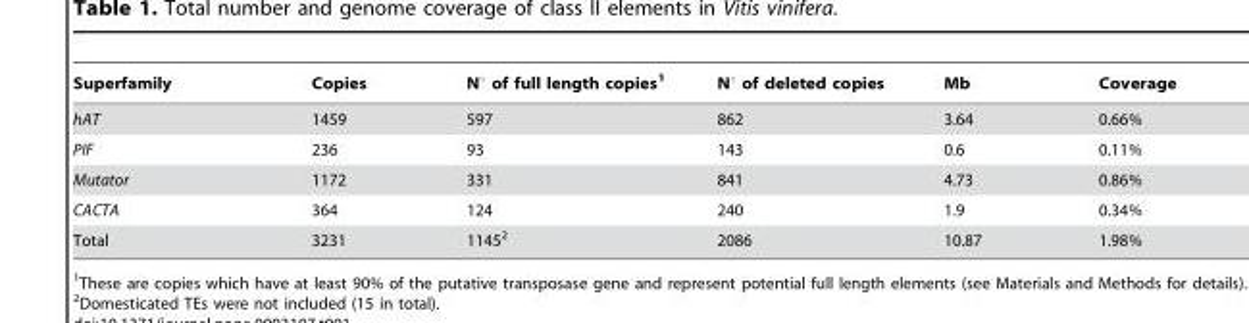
<table><thead><tr><td>Superfamily</td><td>Copies</td><td>N° of full length copies<sup>1</sup></td><td>N° of deleted copies</td><td>Mb</td><td>Coverage</td></tr></thead><tbody><tr><td>hAT</td><td>1459</td><td>597</td><td>862</td><td>3.64</td><td>0.66%</td></tr><tr><td>PIF</td><td>236</td><td>93</td><td>143</td><td>0.6</td><td>0.11%</td></tr><tr><td>Mutator</td><td>1172</td><td>331</td><td>841</td><td>4.73</td><td>0.86%</td></tr><tr><td>CACTA</td><td>364</td><td>124</td><td>240</td><td>1.9</td><td>0.34%</td></tr><tr><td>Total</td><td>3231</td><td>1145<sup>2</sup></td><td>2086</td><td>10.87</td><td>1.98%</td></tr></tbody></table>